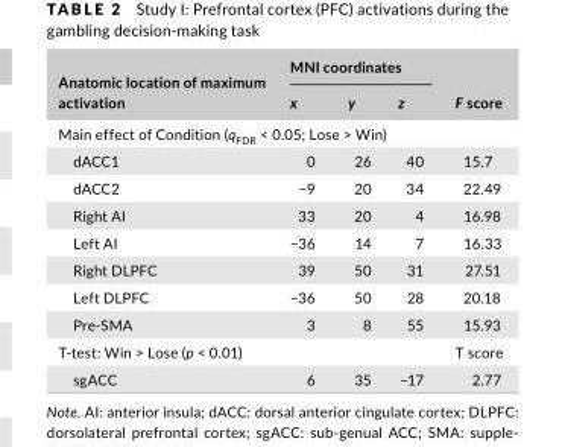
<table><thead><tr><td rowspan="2">Anatomic location of maximum activation</td><td colspan="3">MNI coordinates</td><td rowspan="2">F score</td></tr><tr><td>x</td><td>y</td><td>z</td></tr></thead><tbody><tr><td colspan="5">Main effect of Condition (q<sub>FDR</sub> &lt; 0.05; Lose &gt; Win)</td></tr><tr><td>dACC1</td><td>0</td><td>26</td><td>40</td><td>15.7</td></tr><tr><td>dACC2</td><td>−9</td><td>20</td><td>34</td><td>22.49</td></tr><tr><td>Right AI</td><td>33</td><td>20</td><td>4</td><td>16.98</td></tr><tr><td>Left AI</td><td>−36</td><td>14</td><td>7</td><td>16.33</td></tr><tr><td>Right DLPFC</td><td>39</td><td>50</td><td>31</td><td>27.51</td></tr><tr><td>Left DLPFC</td><td>−36</td><td>50</td><td>28</td><td>20.18</td></tr><tr><td>Pre- SMA</td><td>3</td><td>8</td><td>55</td><td>15.93</td></tr><tr><td>T- test: Win &gt; Lose (p &lt; 0.01)</td><td></td><td></td><td></td><td>T score</td></tr><tr><td>sgACC</td><td>6</td><td>35</td><td>−17</td><td>2.77</td></tr></tbody></table>